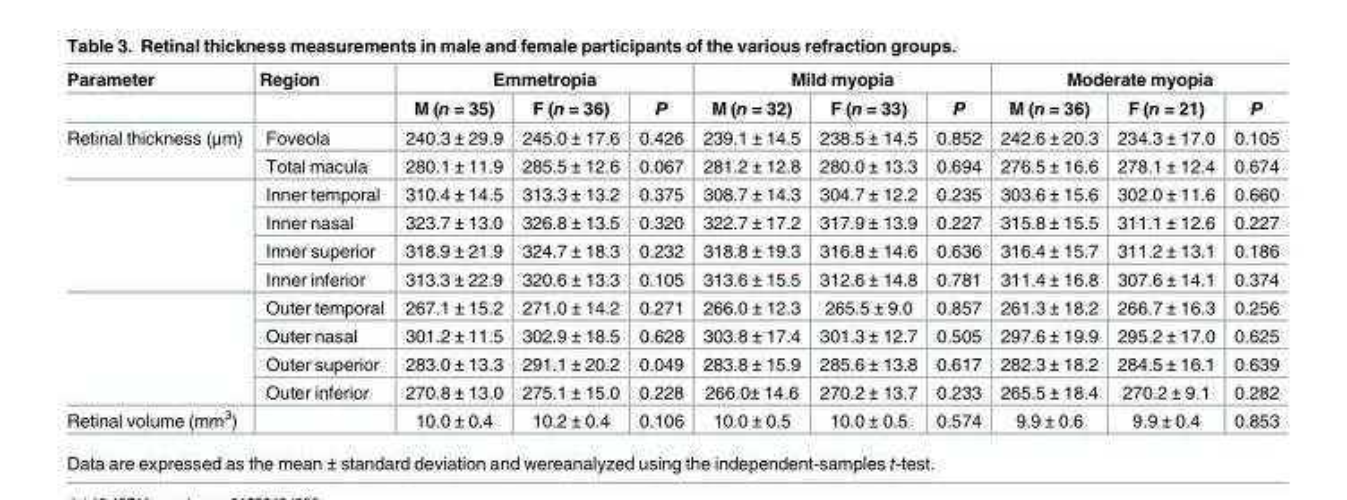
<table><thead><tr><td rowspan="2">Parameter</td><td rowspan="2">Region</td><td colspan="3">Emmetropia</td><td colspan="3">Mild myopia</td><td colspan="3">Moderate myopia</td></tr><tr><td>M (n = 35)</td><td>F (n = 36)</td><td>P</td><td>M (n = 32)</td><td>F (n = 33)</td><td>P</td><td>M (n = 36)</td><td>F (n = 21)</td><td>P</td></tr></thead><tbody><tr><td rowspan="10">Retinal thickness (μm)</td><td>Foveola</td><td>240.3 ± 29.9</td><td>245.0 ± 17.6</td><td>0.426</td><td>239.1 ± 14.5</td><td>238.5 ± 14.5</td><td>0.852</td><td>242.6 ± 20.3</td><td>234.3 ± 17.0</td><td>0.105</td></tr><tr><td>Total macula</td><td>280.1 ± 11.9</td><td>285.5 ± 12.6</td><td>0.067</td><td>281.2 ± 12.8</td><td>280.0 ± 13.3</td><td>0.694</td><td>276.5 ± 16.6</td><td>278.1 ± 12.4</td><td>0.674</td></tr><tr><td>Inner temporal</td><td>310.4 ± 14.5</td><td>313.3 ± 13.2</td><td>0.375</td><td>308.7 ± 14.3</td><td>304.7 ± 12.2</td><td>0.235</td><td>303.6 ± 15.6</td><td>302.0 ± 11.6</td><td>0.660</td></tr><tr><td>Inner nasal</td><td>323.7 ± 13.0</td><td>326.8 ± 13.5</td><td>0.320</td><td>322.7 ± 17.2</td><td>317.9 ± 13.9</td><td>0.227</td><td>315.8 ± 15.5</td><td>311.1 ± 12.6</td><td>0.227</td></tr><tr><td>Inner superior</td><td>318.9 ± 21.9</td><td>324.7 ± 18.3</td><td>0.232</td><td>318.8 ± 19.3</td><td>316.8 ± 14.6</td><td>0.636</td><td>316.4 ± 15.7</td><td>311.2 ± 13.1</td><td>0.186</td></tr><tr><td>Inner inferior</td><td>313.3 ± 22.9</td><td>320.6 ± 13.3</td><td>0.105</td><td>313.6 ± 15.5</td><td>312.6 ± 14.8</td><td>0.781</td><td>311.4 ± 16.8</td><td>307.6 ± 14.1</td><td>0.374</td></tr><tr><td>Outer temporal</td><td>267.1 ± 15.2</td><td>271.0 ± 14.2</td><td>0.271</td><td>266.0 ± 12.3</td><td>265.5 ± 9.0</td><td>0.857</td><td>261.3 ± 18.2</td><td>266.7 ± 16.3</td><td>0.256</td></tr><tr><td>Outer nasal</td><td>301.2 ± 11.5</td><td>302.9 ± 18.5</td><td>0.628</td><td>303.8 ± 17.4</td><td>301.3 ± 12.7</td><td>0.505</td><td>297.6 ± 19.9</td><td>295.2 ± 17.0</td><td>0.625</td></tr><tr><td>Outer superior</td><td>283.0 ± 13.3</td><td>291.1 ± 20.2</td><td>0.049</td><td>283.8 ± 15.9</td><td>285.6 ± 13.8</td><td>0.617</td><td>282.3 ± 18.2</td><td>284.5 ± 16.1</td><td>0.639</td></tr><tr><td>Outer inferior</td><td>270.8 ± 13.0</td><td>275.1 ± 15.0</td><td>0.228</td><td>266.0± 14.6</td><td>270.2 ± 13.7</td><td>0.233</td><td>265.5 ± 18.4</td><td>270.2 ± 9.1</td><td>0.282</td></tr><tr><td>Retinal volume (mm<sup>3</sup>)</td><td></td><td>10.0 ± 0.4</td><td>10.2 ± 0.4</td><td>0.106</td><td>10.0 ± 0.5</td><td>10.0 ± 0.5</td><td>0.574</td><td>9.9 ± 0.6</td><td>9.9 ± 0.4</td><td>0.853</td></tr></tbody></table>